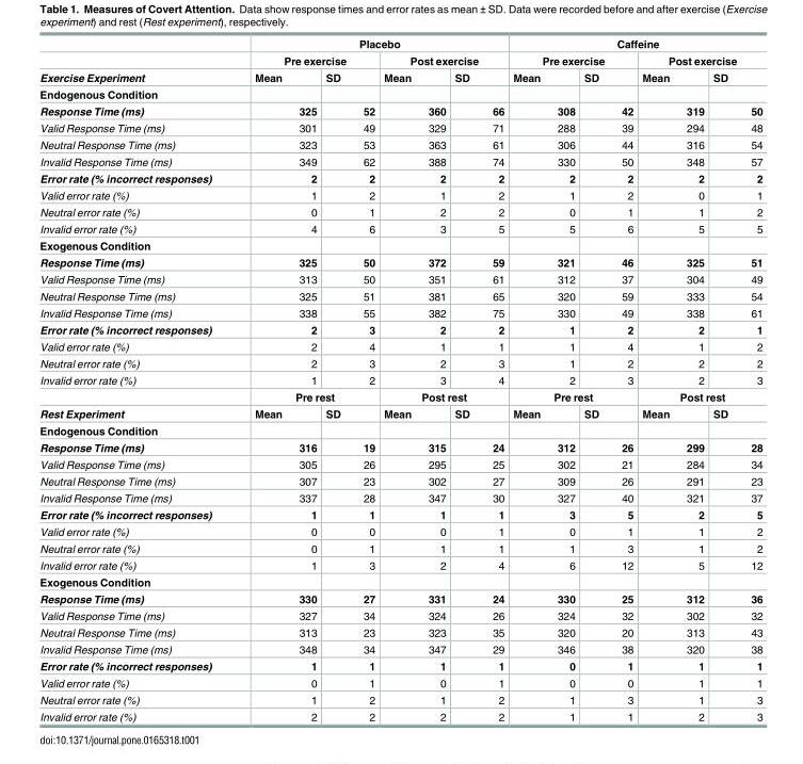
<table><thead><tr><td rowspan="3">Exercise Experiment</td><td colspan="4">Placebo</td><td colspan="4">Caffeine</td></tr><tr><td colspan="2">Pre exercise</td><td colspan="2">Post exercise</td><td colspan="2">Pre exercise</td><td colspan="2">Post exercise</td></tr><tr><td>Mean</td><td>SD</td><td>Mean</td><td>SD</td><td>Mean</td><td>SD</td><td>Mean</td><td>SD</td></tr></thead><tbody><tr><td colspan="9">Endogenous Condition</td></tr><tr><td>Response Time (ms)</td><td>325</td><td>52</td><td>360</td><td>66</td><td>308</td><td>42</td><td>319</td><td>50</td></tr><tr><td>Valid Response Time (ms)</td><td>301</td><td>49</td><td>329</td><td>71</td><td>288</td><td>39</td><td>294</td><td>48</td></tr><tr><td>Neutral Response Time (ms)</td><td>323</td><td>53</td><td>363</td><td>61</td><td>306</td><td>44</td><td>316</td><td>54</td></tr><tr><td>Invalid Response Time (ms)</td><td>349</td><td>62</td><td>388</td><td>74</td><td>330</td><td>50</td><td>348</td><td>57</td></tr><tr><td>Error rate (% incorrect responses)</td><td>2</td><td>2</td><td>2</td><td>2</td><td>2</td><td>2</td><td>2</td><td>2</td></tr><tr><td>Valid error rate (%)</td><td>1</td><td>2</td><td>1</td><td>2</td><td>1</td><td>2</td><td>0</td><td>1</td></tr><tr><td>Neutral error rate (%)</td><td>0</td><td>1</td><td>2</td><td>2</td><td>0</td><td>1</td><td>1</td><td>2</td></tr><tr><td>Invalid error rate (%)</td><td>4</td><td>6</td><td>3</td><td>5</td><td>5</td><td>6</td><td>5</td><td>5</td></tr><tr><td colspan="9">Exogenous Condition</td></tr><tr><td>Response Time (ms)</td><td>325</td><td>50</td><td>372</td><td>59</td><td>321</td><td>46</td><td>325</td><td>51</td></tr><tr><td>Valid Response Time (ms)</td><td>313</td><td>50</td><td>351</td><td>61</td><td>312</td><td>37</td><td>304</td><td>49</td></tr><tr><td>Neutral Response Time (ms)</td><td>325</td><td>51</td><td>381</td><td>65</td><td>320</td><td>59</td><td>333</td><td>54</td></tr><tr><td>Invalid Response Time (ms)</td><td>338</td><td>55</td><td>382</td><td>75</td><td>330</td><td>49</td><td>338</td><td>61</td></tr><tr><td>Error rate (% incorrect responses)</td><td>2</td><td>3</td><td>2</td><td>2</td><td>1</td><td>2</td><td>2</td><td>1</td></tr><tr><td>Valid error rate (%)</td><td>2</td><td>4</td><td>1</td><td>1</td><td>1</td><td>4</td><td>1</td><td>2</td></tr><tr><td>Neutral error rate (%)</td><td>2</td><td>3</td><td>2</td><td>3</td><td>1</td><td>2</td><td>2</td><td>2</td></tr><tr><td rowspan="2">Invalid error rate (%)</td><td>1</td><td>2</td><td>3</td><td>4</td><td>2</td><td>3</td><td>2</td><td>3</td></tr><tr><td colspan="2">Pre rest</td><td colspan="2">Post rest</td><td colspan="2">Pre rest</td><td colspan="2">Post rest</td></tr><tr><td>Rest Experiment</td><td>Mean</td><td>SD</td><td>Mean</td><td>SD</td><td>Mean</td><td>SD</td><td>Mean</td><td>SD</td></tr><tr><td colspan="9">Endogenous Condition</td></tr><tr><td>Response Time (ms)</td><td>316</td><td>19</td><td>315</td><td>24</td><td>312</td><td>26</td><td>299</td><td>28</td></tr><tr><td>Valid Response Time (ms)</td><td>305</td><td>26</td><td>295</td><td>25</td><td>302</td><td>21</td><td>284</td><td>34</td></tr><tr><td>Neutral Response Time (ms)</td><td>307</td><td>23</td><td>302</td><td>27</td><td>309</td><td>26</td><td>291</td><td>23</td></tr><tr><td>Invalid Response Time (ms)</td><td>337</td><td>28</td><td>347</td><td>30</td><td>327</td><td>40</td><td>321</td><td>37</td></tr><tr><td>Error rate (% incorrect responses)</td><td>1</td><td>1</td><td>1</td><td>1</td><td>3</td><td>5</td><td>2</td><td>5</td></tr><tr><td>Valid error rate (%)</td><td>0</td><td>0</td><td>0</td><td>1</td><td>0</td><td>1</td><td>1</td><td>2</td></tr><tr><td>Neutral error rate (%)</td><td>0</td><td>1</td><td>1</td><td>1</td><td>1</td><td>3</td><td>1</td><td>2</td></tr><tr><td>Invalid error rate (%)</td><td>1</td><td>3</td><td>2</td><td>4</td><td>6</td><td>12</td><td>5</td><td>12</td></tr><tr><td colspan="9">Exogenous Condition</td></tr><tr><td>Response Time (ms)</td><td>330</td><td>27</td><td>331</td><td>24</td><td>330</td><td>25</td><td>312</td><td>36</td></tr><tr><td>Valid Response Time (ms)</td><td>327</td><td>34</td><td>324</td><td>26</td><td>324</td><td>32</td><td>302</td><td>32</td></tr><tr><td>Neutral Response Time (ms)</td><td>313</td><td>23</td><td>323</td><td>35</td><td>320</td><td>20</td><td>313</td><td>43</td></tr><tr><td>Invalid Response Time (ms)</td><td>348</td><td>34</td><td>347</td><td>29</td><td>346</td><td>38</td><td>320</td><td>38</td></tr><tr><td>Error rate (% incorrect responses)</td><td>1</td><td>1</td><td>1</td><td>1</td><td>0</td><td>1</td><td>1</td><td>1</td></tr><tr><td>Valid error rate (%)</td><td>0</td><td>1</td><td>0</td><td>1</td><td>0</td><td>0</td><td>1</td><td>1</td></tr><tr><td>Neutral error rate (%)</td><td>1</td><td>2</td><td>1</td><td>2</td><td>1</td><td>3</td><td>1</td><td>3</td></tr><tr><td>Invalid error rate (%)</td><td>2</td><td>2</td><td>2</td><td>2</td><td>1</td><td>1</td><td>2</td><td>3</td></tr></tbody></table>